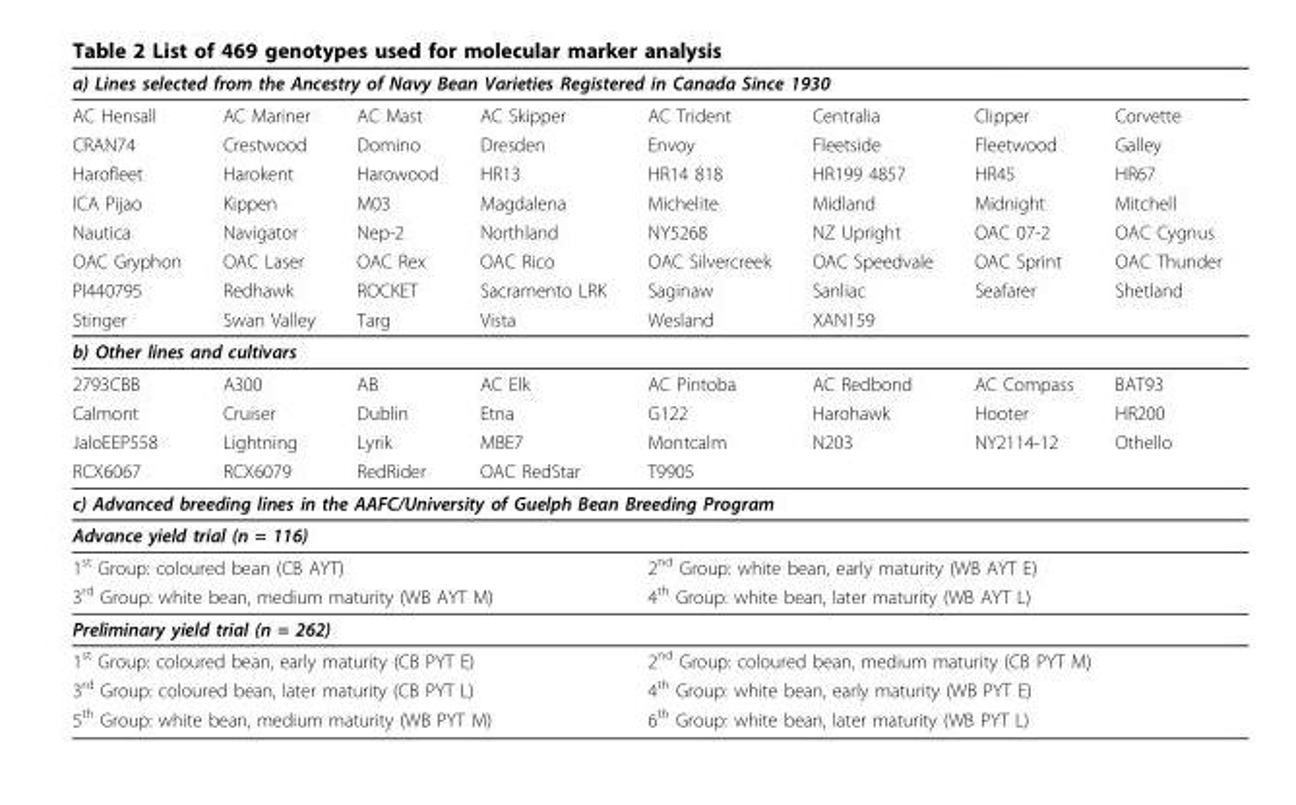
<table><thead><tr><td colspan="8">a) Lines selected from the Ancestry of Navy Bean Varieties Registered in Canada Since 1930</td></tr><tr><td>AC Hensall</td><td>AC Mariner</td><td>AC Mast</td><td>AC Skipper</td><td>AC Trident</td><td>Centralia</td><td>Clipper</td><td>Corvette</td></tr></thead><tbody><tr><td>CRAN74</td><td>Crestwood</td><td>Domino</td><td>Dresden</td><td>Envoy</td><td>Fleetside</td><td>Fleetwood</td><td>Galley</td></tr><tr><td>Harofleet</td><td>Harokent</td><td>Harowood</td><td>HR13</td><td>HR14 818</td><td>HR199 4857</td><td>HR45</td><td>HR67</td></tr><tr><td>ICA Pijao</td><td>Kippen</td><td>M03</td><td>Magdalena</td><td>Michelite</td><td>Midland</td><td>Midnight</td><td>Mitchell</td></tr><tr><td>Nautica</td><td>Navigator</td><td>Nep-2</td><td>Northland</td><td>NY5268</td><td>NZ Upright</td><td>OAC 07-2</td><td>OAC Cygnus</td></tr><tr><td>OAC Gryphon</td><td>OAC Laser</td><td>OAC Rex</td><td>OAC Rico</td><td>OAC Silvercreek</td><td>OAC Speedvale</td><td>OAC Sprint</td><td>OAC Thunder</td></tr><tr><td>PI440795</td><td>Redhawk</td><td>ROCKET</td><td>Sacramento LRK</td><td>Saginaw</td><td>Sanliac</td><td>Seafarer</td><td>Shetland</td></tr><tr><td>Stinger</td><td>Swan Valley</td><td>Targ</td><td>Vista</td><td>Wesland</td><td>XAN159</td><td></td><td></td></tr><tr><td colspan="8">b) Other lines and cultivars</td></tr><tr><td>2793CBB</td><td>A300</td><td>AB</td><td>AC Elk</td><td>AC Pintoba</td><td>AC Redbond</td><td>AC Compass</td><td>BAT93</td></tr><tr><td>Calmont</td><td>Cruiser</td><td>Dublin</td><td>Etna</td><td>G122</td><td>Harohawk</td><td>Hooter</td><td>HR200</td></tr><tr><td>JaloEEP558</td><td>Lightning</td><td>Lyrik</td><td>MBE7</td><td>Montcalm</td><td>N203</td><td>NY2114-12</td><td>Othello</td></tr><tr><td>RCX6067</td><td>RCX6079</td><td>RedRider</td><td>OAC RedStar</td><td>T9905</td><td></td><td></td><td></td></tr><tr><td colspan="8">c) Advanced breeding lines in the AAFC/University of Guelph Bean Breeding Program</td></tr><tr><td colspan="8">Advance yield trial (n = 116)</td></tr><tr><td colspan="4">1<sup>st</sup> Group: coloured bean (CB AYT)</td><td colspan="4">2<sup>nd</sup> Group: white bean, early maturity (WB AYT E)</td></tr><tr><td colspan="4">3<sup>rd</sup> Group: white bean, medium maturity (WB AYT M)</td><td colspan="4">4<sup>th</sup> Group: white bean, later maturity (WB AYT L)</td></tr><tr><td colspan="8">Preliminary yield trial (n = 262)</td></tr><tr><td colspan="4">1<sup>st</sup> Group: coloured bean, early maturity (CB PYT E)</td><td colspan="4">2<sup>nd</sup> Group: coloured bean, medium maturity (CB PYT M)</td></tr><tr><td colspan="4">3<sup>rd</sup> Group: coloured bean, later maturity (CB PYT L)</td><td colspan="4">4<sup>th</sup> Group: white bean, early maturity (WB PYT E)</td></tr><tr><td colspan="4">5<sup>th</sup> Group: white bean, medium maturity (WB PYT M)</td><td colspan="4">6<sup>th</sup> Group: white bean, later maturity (WB PYT L)</td></tr></tbody></table>